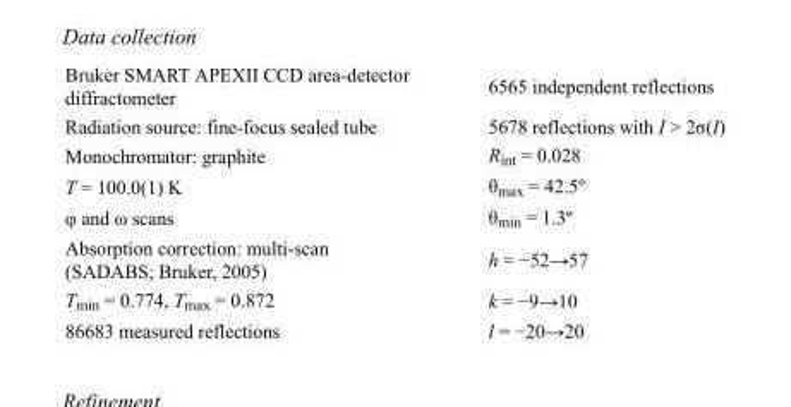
<table><tbody><tr><td>Bruker SMART APEXII CCD area-detector diffractometer</td><td>6565 independent reflections</td></tr><tr><td>Radiation source: fine-focus sealed tube</td><td>5678 reflections with I &gt; 2σ(I)</td></tr><tr><td>Monochromator: graphite</td><td>R<sub>int</sub> = 0.028</td></tr><tr><td>T = 100.0(1) K</td><td>θ<sub>max</sub> = 42.5º</td></tr><tr><td>φ and ω scans</td><td>θ<sub>min</sub> = 1.3º</td></tr><tr><td>Absorption correction: multi-scan (SADABS; Bruker, 2005)</td><td>h = −52→57</td></tr><tr><td>T<sub>min</sub> = 0.774, T<sub>max</sub> = 0.872</td><td>k = −9→10</td></tr><tr><td>86683 measured reflections</td><td>l = −20→20</td></tr></tbody></table>